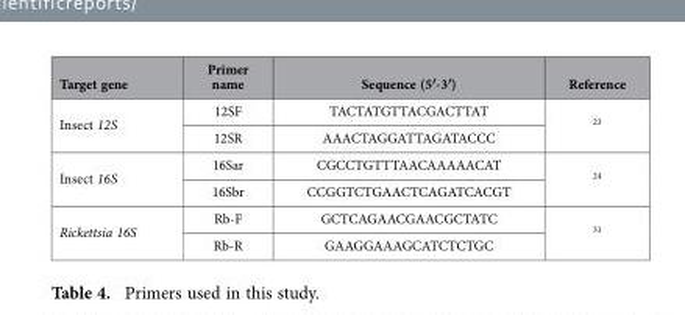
<table><thead><tr><td>Target gene</td><td>Primer name</td><td>Sequence (5′-3′)</td><td>Reference</td></tr></thead><tbody><tr><td rowspan="2">Insect 12S</td><td>12SF</td><td>TACTATGTTACGACTTAT</td><td rowspan="2">23</td></tr><tr><td>12SR</td><td>AAACTAGGATTAGATACCC</td></tr><tr><td rowspan="2">Insect 16S</td><td>16Sar</td><td>CGCCTGTTTAACAAAAACAT</td><td rowspan="2">24</td></tr><tr><td>16Sbr</td><td>CCGGTCTGAACTCAGATCACGT</td></tr><tr><td rowspan="2">Rickettsia 16S</td><td>Rb-F</td><td>GCTCAGAACGAACGCTATC</td><td rowspan="2">31</td></tr><tr><td>Rb-R</td><td>GAAGGAAAGCATCTCTGC</td></tr></tbody></table>